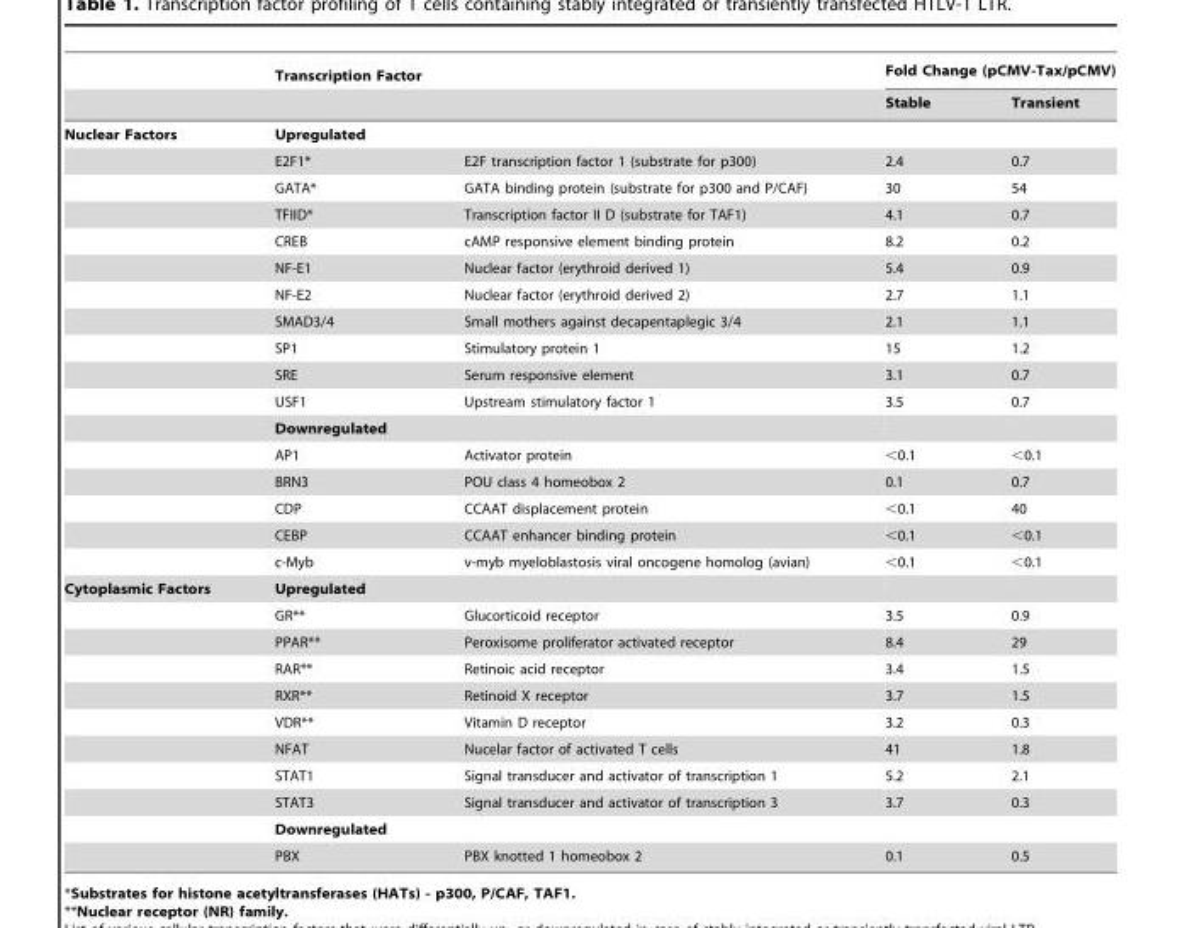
<table><thead><tr><td rowspan="2"></td><td colspan="2">Transcription Factor</td><td colspan="2">Fold Change (pCMV-Tax/pCMV)</td></tr><tr><td></td><td></td><td>Stable</td><td>Transient</td></tr></thead><tbody><tr><td rowspan="17">Nuclear Factors</td><td colspan="2">Upregulated</td><td></td><td></td></tr><tr><td>E2F1*</td><td>E2F transcription factor 1 (substrate for p300)</td><td>2.4</td><td>0.7</td></tr><tr><td>GATA*</td><td>GATA binding protein (substrate for p300 and P/CAF)</td><td>30</td><td>54</td></tr><tr><td>TFIID*</td><td>Transcription factor II D (substrate for TAF1)</td><td>4.1</td><td>0.7</td></tr><tr><td>CREB</td><td>cAMP responsive element binding protein</td><td>8.2</td><td>0.2</td></tr><tr><td>NF-E1</td><td>Nuclear factor (erythroid derived 1)</td><td>5.4</td><td>0.9</td></tr><tr><td>NF-E2</td><td>Nuclear factor (erythroid derived 2)</td><td>2.7</td><td>1.1</td></tr><tr><td>SMAD3/4</td><td>Small mothers against decapentaplegic 3/4</td><td>2.1</td><td>1.1</td></tr><tr><td>SP1</td><td>Stimulatory protein 1</td><td>15</td><td>1.2</td></tr><tr><td>SRE</td><td>Serum responsive element</td><td>3.1</td><td>0.7</td></tr><tr><td>USF1</td><td>Upstream stimulatory factor 1</td><td>3.5</td><td>0.7</td></tr><tr><td colspan="2">Downregulated</td><td></td><td></td></tr><tr><td>AP1</td><td>Activator protein</td><td>&lt;0.1</td><td>&lt;0.1</td></tr><tr><td>BRN3</td><td>POU class 4 homeobox 2</td><td>0.1</td><td>0.7</td></tr><tr><td>CDP</td><td>CCAAT displacement protein</td><td>&lt;0.1</td><td>40</td></tr><tr><td>CEBP</td><td>CCAAT enhancer binding protein</td><td>&lt;0.1</td><td>&lt;0.1</td></tr><tr><td>c-Myb</td><td>v-myb myeloblastosis viral oncogene homolog (avian)</td><td>&lt;0.1</td><td>&lt;0.1</td></tr><tr><td rowspan="11">Cytoplasmic Factors</td><td colspan="2">Upregulated</td><td></td><td></td></tr><tr><td>GR**</td><td>Glucorticoid receptor</td><td>3.5</td><td>0.9</td></tr><tr><td>PPAR**</td><td>Peroxisome proliferator activated receptor</td><td>8.4</td><td>29</td></tr><tr><td>RAR**</td><td>Retinoic acid receptor</td><td>3.4</td><td>1.5</td></tr><tr><td>RXR**</td><td>Retinoid X receptor</td><td>3.7</td><td>1.5</td></tr><tr><td>VDR**</td><td>Vitamin D receptor</td><td>3.2</td><td>0.3</td></tr><tr><td>NFAT</td><td>Nucelar factor of activated T cells</td><td>41</td><td>1.8</td></tr><tr><td>STAT1</td><td>Signal transducer and activator of transcription 1</td><td>5.2</td><td>2.1</td></tr><tr><td>STAT3</td><td>Signal transducer and activator of transcription 3</td><td>3.7</td><td>0.3</td></tr><tr><td colspan="2">Downregulated</td><td></td><td></td></tr><tr><td>PBX</td><td>PBX knotted 1 homeobox 2</td><td>0.1</td><td>0.5</td></tr></tbody></table>